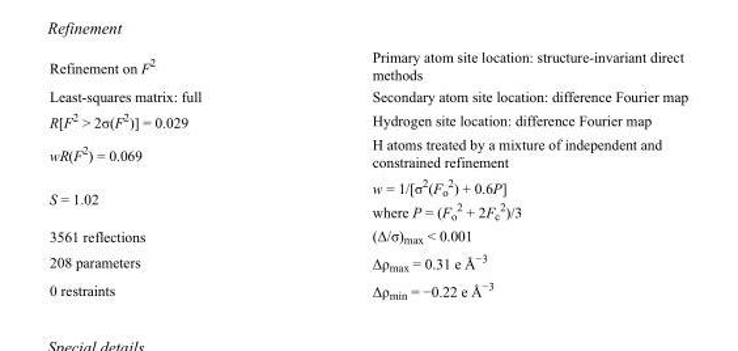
<table><tbody><tr><td>Refinement on F<sup>2</sup></td><td>Primary atom site location: structure-invariant direct methods</td></tr><tr><td>Least-squares matrix: full</td><td>Secondary atom site location: difference Fourier map</td></tr><tr><td>R[F<sup>2</sup> &gt; 2σ(F<sup>2</sup>)] = 0.029</td><td>Hydrogen site location: difference Fourier map</td></tr><tr><td>wR(F<sup>2</sup>) = 0.069</td><td>H atoms treated by a mixture of independent and constrained refinement</td></tr><tr><td>S = 1.02</td><td>w = 1/[σ<sup>2</sup>(F<sub>o</sub> <sup>2</sup>) + 0.6P] where P = (F<sub>o</sub> <sup>2</sup> + 2F<sub>c</sub> <sup>2</sup>)/3</td></tr><tr><td>3561 reflections</td><td>(Δ/σ)<sub>max</sub> &lt; 0.001</td></tr><tr><td>208 parameters</td><td>Δρ<sub>max</sub> = 0.31 e Å<sup>−3</sup></td></tr><tr><td>0 restraints</td><td>Δρ<sub>min</sub> = −0.22 e Å<sup>−3</sup></td></tr></tbody></table>